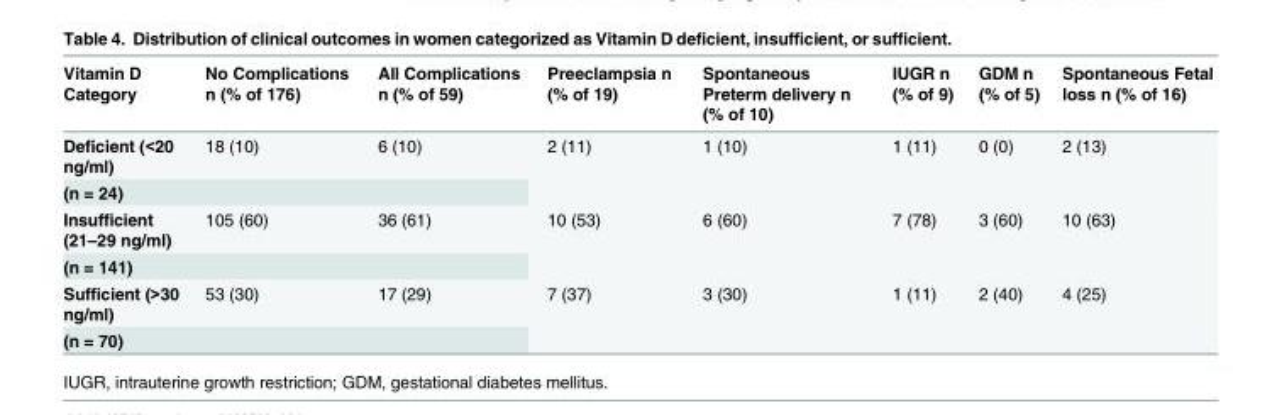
<table><thead><tr><td>Vitamin D Category</td><td>No Complications n (% of 176)</td><td>All Complications n (% of 59)</td><td>Preeclampsia n (% of 19)</td><td>Spontaneous Preterm delivery n (% of 10)</td><td>IUGR n (% of 9)</td><td>GDM n (% of 5)</td><td>Spontaneous Fetal loss n (% of 16)</td></tr></thead><tbody><tr><td>Deficient (&lt;20 ng/ml)</td><td>18 (10)</td><td>6 (10)</td><td rowspan="2">2 (11)</td><td rowspan="2">1 (10)</td><td rowspan="2">1 (11)</td><td rowspan="2">0 (0)</td><td rowspan="2">2 (13)</td></tr><tr><td colspan="3">(n = 24)</td></tr><tr><td>Insufficient (21–29 ng/ml)</td><td>105 (60)</td><td>36 (61)</td><td rowspan="2">10 (53)</td><td rowspan="2">6 (60)</td><td rowspan="2">7 (78)</td><td rowspan="2">3 (60)</td><td rowspan="2">10 (63)</td></tr><tr><td colspan="3">(n = 141)</td></tr><tr><td>Sufficient (&gt;30 ng/ml)</td><td>53 (30)</td><td>17 (29)</td><td rowspan="2">7 (37)</td><td rowspan="2">3 (30)</td><td rowspan="2">1 (11)</td><td rowspan="2">2 (40)</td><td rowspan="2">4 (25)</td></tr><tr><td>(n = 70)</td><td></td><td></td></tr></tbody></table>